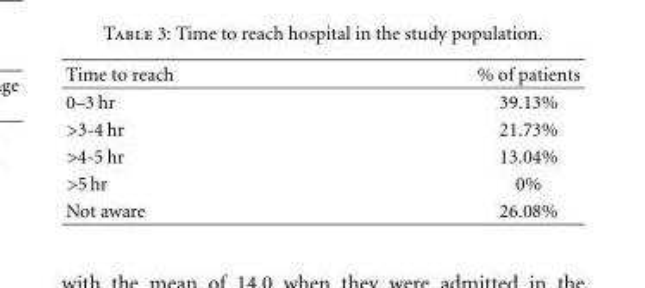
<table><thead><tr><td>Time to reach</td><td>% of patients</td></tr></thead><tbody><tr><td>0–3 hr</td><td>39.13%</td></tr><tr><td>&gt;3-4 hr</td><td>21.73%</td></tr><tr><td>&gt;4-5 hr</td><td>13.04%</td></tr><tr><td>&gt;5 hr</td><td>0%</td></tr><tr><td>Not aware</td><td>26.08%</td></tr></tbody></table>